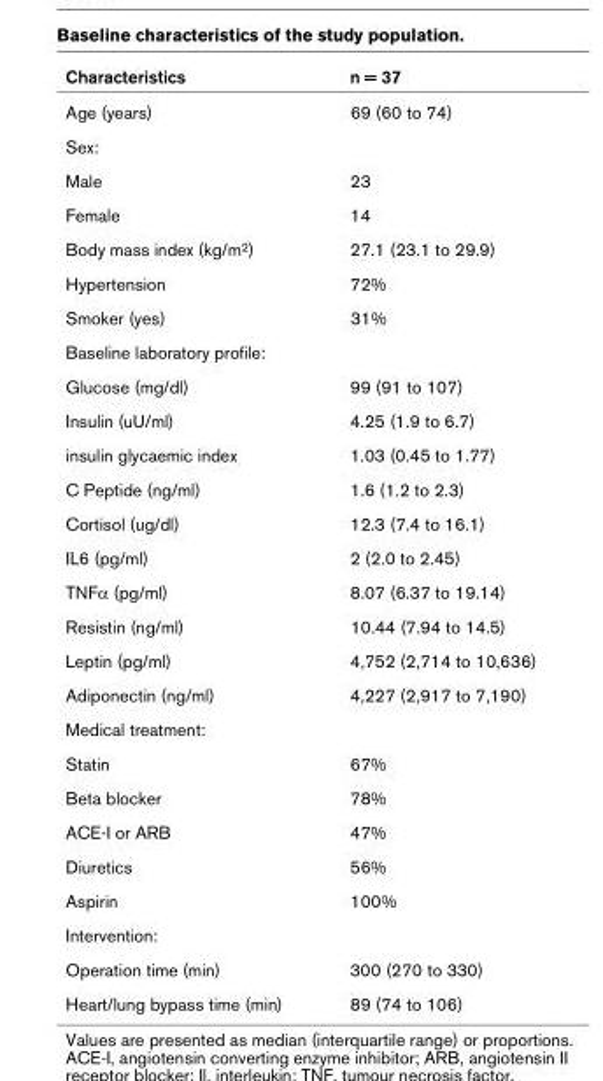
<table><thead><tr><td>Characteristics</td><td>n = 37</td></tr></thead><tbody><tr><td>Age (years)</td><td>69 (60 to 74)</td></tr><tr><td colspan="2">Sex:</td></tr><tr><td>Male</td><td>23</td></tr><tr><td>Female</td><td>14</td></tr><tr><td>Body mass index (kg/m<sup>2</sup>)</td><td>27.1 (23.1 to 29.9)</td></tr><tr><td>Hypertension</td><td>72%</td></tr><tr><td>Smoker (yes)</td><td>31%</td></tr><tr><td colspan="2">Baseline laboratory profile:</td></tr><tr><td>Glucose (mg/dl)</td><td>99 (91 to 107)</td></tr><tr><td>Insulin (uU/ml)</td><td>4.25 (1.9 to 6.7)</td></tr><tr><td>insulin glycaemic index</td><td>1.03 (0.45 to 1.77)</td></tr><tr><td>C Peptide (ng/ml)</td><td>1.6 (1.2 to 2.3)</td></tr><tr><td>Cortisol (ug/dl)</td><td>12.3 (7.4 to 16.1)</td></tr><tr><td>IL6 (pg/ml)</td><td>2 (2.0 to 2.45)</td></tr><tr><td>TNFα (pg/ml)</td><td>8.07 (6.37 to 19.14)</td></tr><tr><td>Resistin (ng/ml)</td><td>10.44 (7.94 to 14.5)</td></tr><tr><td>Leptin (pg/ml)</td><td>4,752 (2,714 to 10,636)</td></tr><tr><td>Adiponectin (ng/ml)</td><td>4,227 (2,917 to 7,190)</td></tr><tr><td colspan="2">Medical treatment:</td></tr><tr><td>Statin</td><td>67%</td></tr><tr><td>Beta blocker</td><td>78%</td></tr><tr><td>ACE-I or ARB</td><td>47%</td></tr><tr><td>Diuretics</td><td>56%</td></tr><tr><td>Aspirin</td><td>100%</td></tr><tr><td colspan="2">Intervention:</td></tr><tr><td>Operation time (min)</td><td>300 (270 to 330)</td></tr><tr><td>Heart/lung bypass time (min)</td><td>89 (74 to 106)</td></tr></tbody></table>